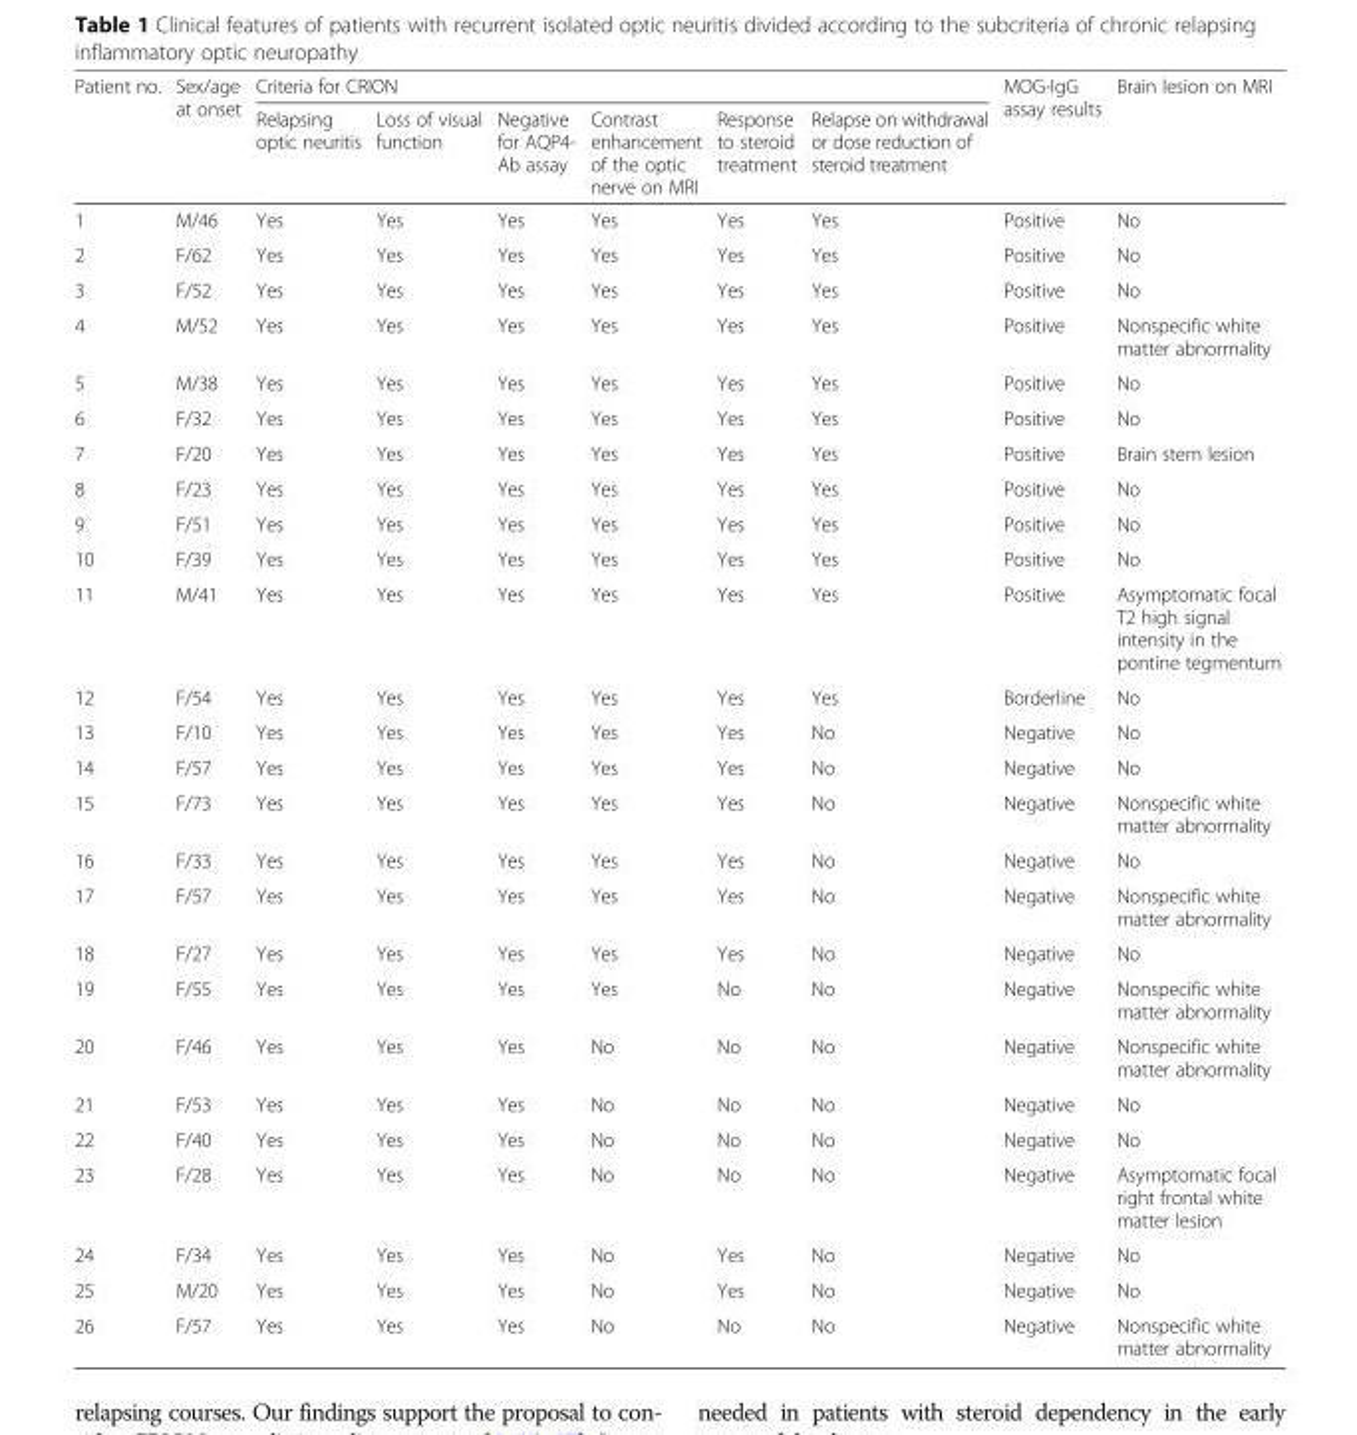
<table><thead><tr><td rowspan="2">Patient no.</td><td rowspan="2">Sex/age at onset</td><td colspan="6">Criteria for CRION</td><td rowspan="2">MOG-IgG assay results</td><td rowspan="2">Brain lesion on MRI</td></tr><tr><td>Relapsing optic neuritis</td><td>Loss of visual function</td><td>Negative for AQP4- Ab assay</td><td>Contrast enhancement of the optic nerve on MRI</td><td>Response to steroid treatment</td><td>Relapse on withdrawal or dose reduction of steroid treatment</td></tr></thead><tbody><tr><td>1</td><td>M/46</td><td>Yes</td><td>Yes</td><td>Yes</td><td>Yes</td><td>Yes</td><td>Yes</td><td>Positive</td><td>No</td></tr><tr><td>2</td><td>F/62</td><td>Yes</td><td>Yes</td><td>Yes</td><td>Yes</td><td>Yes</td><td>Yes</td><td>Positive</td><td>No</td></tr><tr><td>3</td><td>F/52</td><td>Yes</td><td>Yes</td><td>Yes</td><td>Yes</td><td>Yes</td><td>Yes</td><td>Positive</td><td>No</td></tr><tr><td>4</td><td>M/52</td><td>Yes</td><td>Yes</td><td>Yes</td><td>Yes</td><td>Yes</td><td>Yes</td><td>Positive</td><td>Nonspecific white matter abnormality</td></tr><tr><td>5</td><td>M/38</td><td>Yes</td><td>Yes</td><td>Yes</td><td>Yes</td><td>Yes</td><td>Yes</td><td>Positive</td><td>No</td></tr><tr><td>6</td><td>F/32</td><td>Yes</td><td>Yes</td><td>Yes</td><td>Yes</td><td>Yes</td><td>Yes</td><td>Positive</td><td>No</td></tr><tr><td>7</td><td>F/20</td><td>Yes</td><td>Yes</td><td>Yes</td><td>Yes</td><td>Yes</td><td>Yes</td><td>Positive</td><td>Brain stem lesion</td></tr><tr><td>8</td><td>F/23</td><td>Yes</td><td>Yes</td><td>Yes</td><td>Yes</td><td>Yes</td><td>Yes</td><td>Positive</td><td>No</td></tr><tr><td>9</td><td>F/51</td><td>Yes</td><td>Yes</td><td>Yes</td><td>Yes</td><td>Yes</td><td>Yes</td><td>Positive</td><td>No</td></tr><tr><td>10</td><td>F/39</td><td>Yes</td><td>Yes</td><td>Yes</td><td>Yes</td><td>Yes</td><td>Yes</td><td>Positive</td><td>No</td></tr><tr><td>11</td><td>M/41</td><td>Yes</td><td>Yes</td><td>Yes</td><td>Yes</td><td>Yes</td><td>Yes</td><td>Positive</td><td>Asymptomatic focal T2 high signal intensity in the pontine tegmentum</td></tr><tr><td>12</td><td>F/54</td><td>Yes</td><td>Yes</td><td>Yes</td><td>Yes</td><td>Yes</td><td>Yes</td><td>Borderline</td><td>No</td></tr><tr><td>13</td><td>F/10</td><td>Yes</td><td>Yes</td><td>Yes</td><td>Yes</td><td>Yes</td><td>No</td><td>Negative</td><td>No</td></tr><tr><td>14</td><td>F/57</td><td>Yes</td><td>Yes</td><td>Yes</td><td>Yes</td><td>Yes</td><td>No</td><td>Negative</td><td>No</td></tr><tr><td>15</td><td>F/73</td><td>Yes</td><td>Yes</td><td>Yes</td><td>Yes</td><td>Yes</td><td>No</td><td>Negative</td><td>Nonspecific white matter abnormality</td></tr><tr><td>16</td><td>F/33</td><td>Yes</td><td>Yes</td><td>Yes</td><td>Yes</td><td>Yes</td><td>No</td><td>Negative</td><td>No</td></tr><tr><td>17</td><td>F/57</td><td>Yes</td><td>Yes</td><td>Yes</td><td>Yes</td><td>Yes</td><td>No</td><td>Negative</td><td>Nonspecific white matter abnormality</td></tr><tr><td>18</td><td>F/27</td><td>Yes</td><td>Yes</td><td>Yes</td><td>Yes</td><td>Yes</td><td>No</td><td>Negative</td><td>No</td></tr><tr><td>19</td><td>F/55</td><td>Yes</td><td>Yes</td><td>Yes</td><td>Yes</td><td>No</td><td>No</td><td>Negative</td><td>Nonspecific white matter abnormality</td></tr><tr><td>20</td><td>F/46</td><td>Yes</td><td>Yes</td><td>Yes</td><td>No</td><td>No</td><td>No</td><td>Negative</td><td>Nonspecific white matter abnormality</td></tr><tr><td>21</td><td>F/53</td><td>Yes</td><td>Yes</td><td>Yes</td><td>No</td><td>No</td><td>No</td><td>Negative</td><td>No</td></tr><tr><td>22</td><td>F/40</td><td>Yes</td><td>Yes</td><td>Yes</td><td>No</td><td>No</td><td>No</td><td>Negative</td><td>No</td></tr><tr><td>23</td><td>F/28</td><td>Yes</td><td>Yes</td><td>Yes</td><td>No</td><td>No</td><td>No</td><td>Negative</td><td>Asymptomatic focal right frontal white matter lesion</td></tr><tr><td>24</td><td>F/34</td><td>Yes</td><td>Yes</td><td>Yes</td><td>No</td><td>Yes</td><td>No</td><td>Negative</td><td>No</td></tr><tr><td>25</td><td>M/20</td><td>Yes</td><td>Yes</td><td>Yes</td><td>No</td><td>Yes</td><td>No</td><td>Negative</td><td>No</td></tr><tr><td>26</td><td>F/57</td><td>Yes</td><td>Yes</td><td>Yes</td><td>No</td><td>No</td><td>No</td><td>Negative</td><td>Nonspecific white matter abnormality</td></tr></tbody></table>